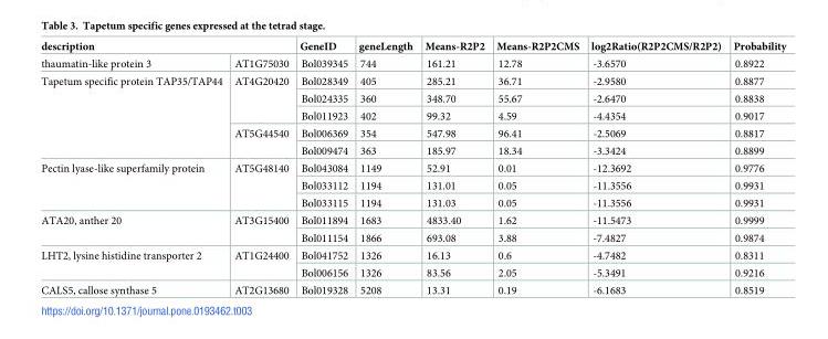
<table><thead><tr><td colspan="2">description</td><td rowspan="2">GeneID Bol039345</td><td rowspan="2">geneLength 744</td><td rowspan="2">Means-R2P2 161.21</td><td rowspan="2">Means-R2P2CMS 12.78</td><td rowspan="2">log2Ratio(R2P2CMS/R2P2) -3.6570</td><td rowspan="2">Probability 0.8922</td></tr><tr><td>thaumatin-like protein 3</td><td>AT1G75030</td></tr></thead><tbody><tr><td rowspan="5">Tapetum specific protein TAP35/TAP44</td><td rowspan="3">AT4G20420</td><td>Bol028349</td><td>405</td><td>285.21</td><td>36.71</td><td>-2.9580</td><td>0.8877</td></tr><tr><td>Bol024335</td><td>360</td><td>348.70</td><td>55.67</td><td>-2.6470</td><td>0.8838</td></tr><tr><td>Bol011923</td><td>402</td><td>99.32</td><td>4.59</td><td>-4.4354</td><td>0.9017</td></tr><tr><td rowspan="2">AT5G44540</td><td>Bol006369</td><td>354</td><td>547.98</td><td>96.41</td><td>-2.5069</td><td>0.8817</td></tr><tr><td>Bol009474</td><td>363</td><td>185.97</td><td>18.34</td><td>-3.3424</td><td>0.8899</td></tr><tr><td rowspan="3">Pectin lyase-like superfamily protein</td><td rowspan="3">AT5G48140</td><td>Bol043084</td><td>1149</td><td>52.91</td><td>0.01</td><td>-12.3692</td><td>0.9776</td></tr><tr><td>Bol033112</td><td>1194</td><td>131.01</td><td>0.05</td><td>-11.3556</td><td>0.9931</td></tr><tr><td>Bol033115</td><td>1194</td><td>131.03</td><td>0.05</td><td>-11.3556</td><td>0.9931</td></tr><tr><td rowspan="2">ATA20, anther 20</td><td rowspan="2">AT3G15400</td><td>Bol011894</td><td>1683</td><td>4833.40</td><td>1.62</td><td>-11.5473</td><td>0.9999</td></tr><tr><td>Bol011154</td><td>1866</td><td>693.08</td><td>3.88</td><td>-7.4827</td><td>0.9874</td></tr><tr><td rowspan="2">LHT2, lysine histidine transporter 2</td><td rowspan="2">AT1G24400</td><td>Bol041752</td><td>1326</td><td>16.13</td><td>0.6</td><td>-4.7482</td><td>0.8311</td></tr><tr><td>Bol006156</td><td>1326</td><td>83.56</td><td>2.05</td><td>-5.3491</td><td>0.9216</td></tr><tr><td>CALS5, callose synthase 5</td><td>AT2G13680</td><td>Bol019328</td><td>5208</td><td>13.31</td><td>0.19</td><td>-6.1683</td><td>0.8519</td></tr></tbody></table>